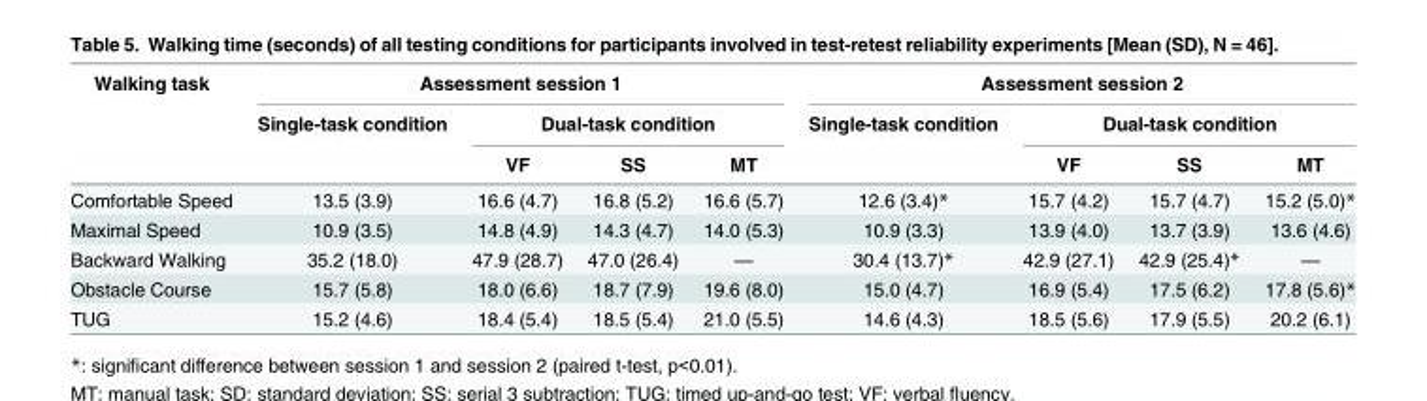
<table><thead><tr><td rowspan="3">Walking task</td><td colspan="4">Assessment session 1</td><td colspan="4">Assessment session 2</td></tr><tr><td rowspan="2">Single-task condition</td><td colspan="3">Dual-task condition</td><td rowspan="2">Single-task condition</td><td colspan="3">Dual-task condition</td></tr><tr><td>VF</td><td>SS</td><td>MT</td><td>VF</td><td>SS</td><td>MT</td></tr></thead><tbody><tr><td>Comfortable Speed</td><td>13.5 (3.9)</td><td>16.6 (4.7)</td><td>16.8 (5.2)</td><td>16.6 (5.7)</td><td>12.6 (3.4)*</td><td>15.7 (4.2)</td><td>15.7 (4.7)</td><td>15.2 (5.0)*</td></tr><tr><td>Maximal Speed</td><td>10.9 (3.5)</td><td>14.8 (4.9)</td><td>14.3 (4.7)</td><td>14.0 (5.3)</td><td>10.9 (3.3)</td><td>13.9 (4.0)</td><td>13.7 (3.9)</td><td>13.6 (4.6)</td></tr><tr><td>Backward Walking</td><td>35.2 (18.0)</td><td>47.9 (28.7)</td><td>47.0 (26.4)</td><td>—</td><td>30.4 (13.7)*</td><td>42.9 (27.1)</td><td>42.9 (25.4)*</td><td>—</td></tr><tr><td>Obstacle Course</td><td>15.7 (5.8)</td><td>18.0 (6.6)</td><td>18.7 (7.9)</td><td>19.6 (8.0)</td><td>15.0 (4.7)</td><td>16.9 (5.4)</td><td>17.5 (6.2)</td><td>17.8 (5.6)*</td></tr><tr><td>TUG</td><td>15.2 (4.6)</td><td>18.4 (5.4)</td><td>18.5 (5.4)</td><td>21.0 (5.5)</td><td>14.6 (4.3)</td><td>18.5 (5.6)</td><td>17.9 (5.5)</td><td>20.2 (6.1)</td></tr></tbody></table>